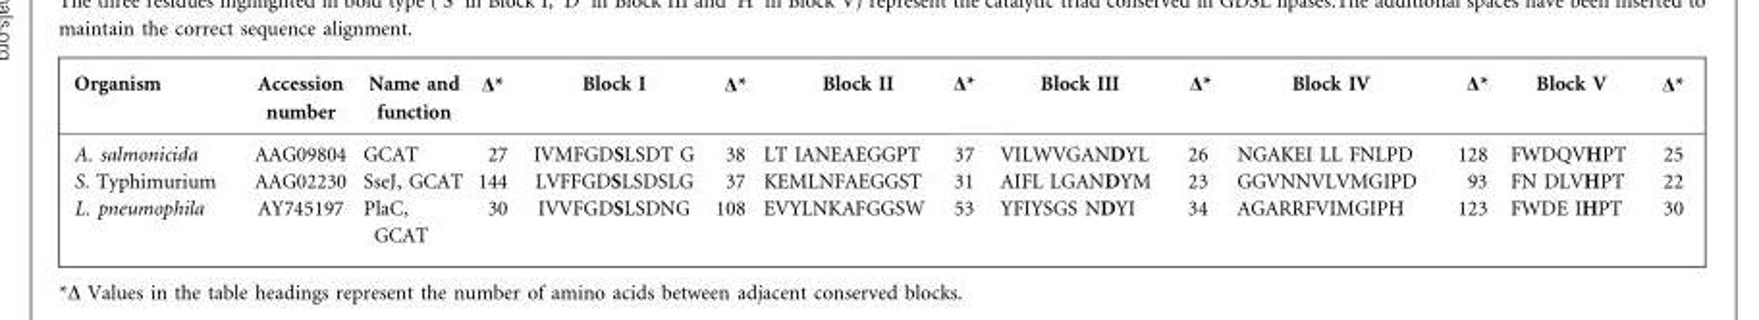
<table><thead><tr><td>Organism</td><td>Accession number</td><td>Name and function</td><td>Δ*</td><td>Block I</td><td>Δ*</td><td>Block II</td><td>Δ*</td><td>Block III</td><td>Δ*</td><td>Block IV</td><td>Δ*</td><td>Block V</td><td>Δ*</td></tr></thead><tbody><tr><td>A. salmonicida</td><td>AAG09804</td><td>GCAT</td><td>27</td><td>IVMFGDSLSDT G</td><td>38</td><td>LT IANEAEGGPT</td><td>37</td><td>VILWVGANDYL</td><td>26</td><td>NGAKEI LL FNLPD</td><td>128</td><td>FWDQVHPT</td><td>25</td></tr><tr><td>S. Typhimurium</td><td>AAG02230</td><td>SseJ, GCAT</td><td>144</td><td>LVFFGDSLSDSLG</td><td>37</td><td>KEMLNFAEGGST</td><td>31</td><td>AIFL LGANDYM</td><td>23</td><td>GGVNNVLVMGIPD</td><td>93</td><td>FN DLVHPT</td><td>22</td></tr><tr><td>L. pneumophila</td><td>AY745197</td><td>PlaC, GCAT</td><td>30</td><td>IVVFGDSLSDNG</td><td>108</td><td>EVYLNKAFGGSW</td><td>53</td><td>YFIYSGS NDYI</td><td>34</td><td>AGARRFVIMGIPH</td><td>123</td><td>FWDE IHPT</td><td>30</td></tr></tbody></table>